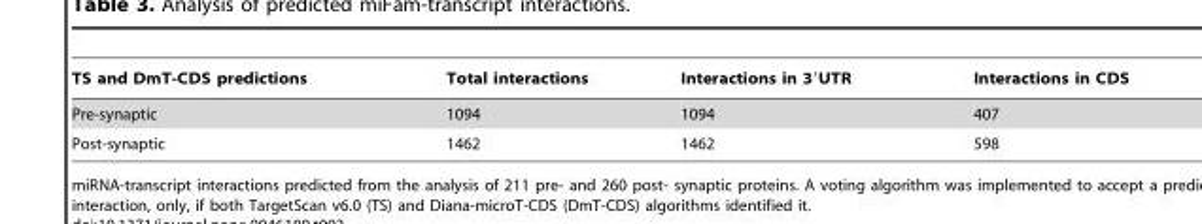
<table><thead><tr><td>TS and DmT-CDS predictions</td><td>Total interactions</td><td>Interactions in 3′UTR</td><td>Interactions in CDS</td></tr></thead><tbody><tr><td>Pre-synaptic</td><td>1094</td><td>1094</td><td>407</td></tr><tr><td>Post-synaptic</td><td>1462</td><td>1462</td><td>598</td></tr></tbody></table>